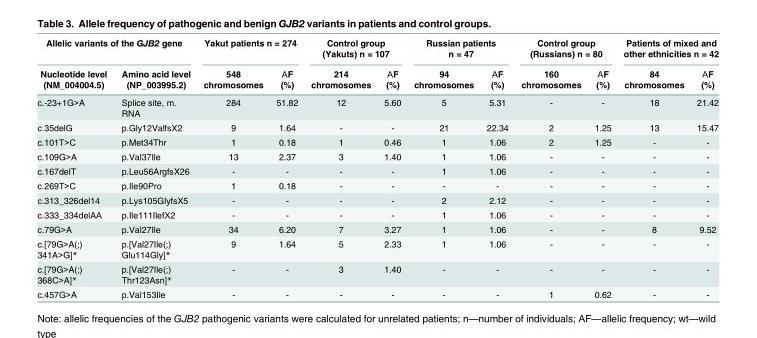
<table><thead><tr><td colspan="2">Allelic variants of the GJB2 gene</td><td colspan="2">Yakut patients n = 274</td><td colspan="2">Control group (Yakuts) n = 107</td><td colspan="2">Russian patients n = 47</td><td colspan="2">Control group (Russians) n = 80</td><td colspan="2">Patients of mixed and other ethnicities n = 42</td></tr><tr><td>Nucleotide level (NM_004004.5)</td><td>Amino acid level (NP_003995.2)</td><td>548 chromosomes</td><td>АF (%)</td><td>214 chromosomes</td><td>АF (%)</td><td>94 chromosomes</td><td>АF (%)</td><td>160 chromosomes</td><td>АF (%)</td><td>84 chromosomes</td><td>АF (%)</td></tr></thead><tbody><tr><td>c.-23+1G&gt;A</td><td>Splice site, m. RNA</td><td>284</td><td>51.82</td><td>12</td><td>5.60</td><td>5</td><td>5.31</td><td>-</td><td>-</td><td>18</td><td>21.42</td></tr><tr><td>c.35delG</td><td>p.Gly12ValfsX2</td><td>9</td><td>1.64</td><td>-</td><td>-</td><td>21</td><td>22.34</td><td>2</td><td>1.25</td><td>13</td><td>15.47</td></tr><tr><td>c.101Т&gt;С</td><td>p.Met34Thr</td><td>1</td><td>0.18</td><td>1</td><td>0.46</td><td>1</td><td>1.06</td><td>2</td><td>1.25</td><td>-</td><td>-</td></tr><tr><td>c.109G&gt;A</td><td>p.Val37Ile</td><td>13</td><td>2.37</td><td>3</td><td>1.40</td><td>1</td><td>1.06</td><td>-</td><td>-</td><td>-</td><td>-</td></tr><tr><td>c.167delТ</td><td>p.Leu56ArgfsX26</td><td>-</td><td>-</td><td>-</td><td>-</td><td>1</td><td>1.06</td><td>-</td><td>-</td><td>-</td><td>-</td></tr><tr><td>c.269Т&gt;С</td><td>p.Ile90Pro</td><td>1</td><td>0.18</td><td>-</td><td>-</td><td>-</td><td>-</td><td>-</td><td>-</td><td>-</td><td>-</td></tr><tr><td>с.313_326del14</td><td>p.Lys105GlyfsX5</td><td>-</td><td>-</td><td>-</td><td>-</td><td>2</td><td>2.12</td><td>-</td><td>-</td><td>-</td><td>-</td></tr><tr><td>c.333_334delAА</td><td>p.Ile111IlefХ2</td><td>-</td><td>-</td><td>-</td><td>-</td><td>1</td><td>1.06</td><td>-</td><td>-</td><td>-</td><td>-</td></tr><tr><td>c.79G&gt;A</td><td>p.Val27Ile</td><td>34</td><td>6.20</td><td>7</td><td>3.27</td><td>1</td><td>1.06</td><td>-</td><td>-</td><td>8</td><td>9.52</td></tr><tr><td>c.[79G&gt;A(;) 341A&gt;G]*</td><td>p.[Val27Ile(;) Glu114Gly]*</td><td>9</td><td>1.64</td><td>5</td><td>2.33</td><td>1</td><td>1.06</td><td>-</td><td>-</td><td>-</td><td>-</td></tr><tr><td>c.[79G&gt;A(;) 368С&gt;A]*</td><td>p.[Val27Ile(;) Thr123Asn]*</td><td>-</td><td>-</td><td>3</td><td>1.40</td><td>-</td><td>-</td><td>-</td><td>-</td><td>-</td><td>-</td></tr><tr><td>c.457G&gt;A</td><td>p.Val153Ile</td><td>-</td><td>-</td><td>-</td><td>-</td><td>-</td><td>-</td><td>1</td><td>0.62</td><td>-</td><td>-</td></tr></tbody></table>